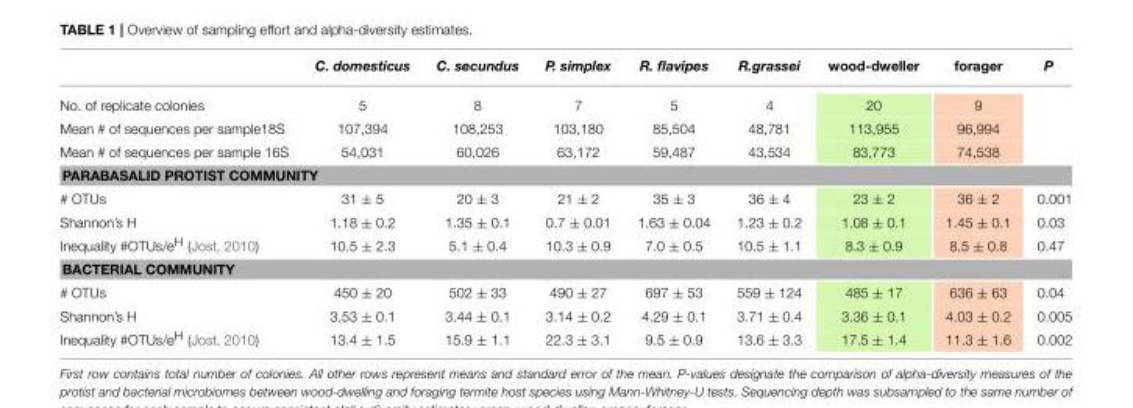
<table><thead><tr><td></td><td>C. domesticus</td><td>C. secundus</td><td>P. simplex</td><td>R. flavipes</td><td>R.grassei</td><td>wood-dweller</td><td>forager</td><td>P</td></tr></thead><tbody><tr><td>No. of replicate colonies</td><td>5</td><td>8</td><td>7</td><td>5</td><td>4</td><td>20</td><td>9</td><td></td></tr><tr><td>Mean # of sequences per sample18S</td><td>107,394</td><td>108,253</td><td>103,180</td><td>85,504</td><td>48,781</td><td>113,955</td><td>96,994</td><td></td></tr><tr><td>Mean # of sequences per sample 16S</td><td>54,031</td><td>60,026</td><td>63,172</td><td>59,487</td><td>43,534</td><td>83,773</td><td>74,538</td><td></td></tr><tr><td colspan="9">PARABASALID PROTIST COMMUNITY</td></tr><tr><td># OTUs</td><td>31 ± 5</td><td>20 ± 3</td><td>21 ± 2</td><td>35 ± 3</td><td>36 ± 4</td><td>23 ± 2</td><td>36 ± 2</td><td>0.001</td></tr><tr><td>Shannon’s H</td><td>1.18 ± 0.2</td><td>1.35 ± 0.1</td><td>0.7 ± 0.01</td><td>1.63 ± 0.04</td><td>1.23 ± 0.2</td><td>1.08 ± 0.1</td><td>1.45 ± 0.1</td><td>0.03</td></tr><tr><td>Inequality #OTUs/e<sup>H</sup> (Jost, 2010)</td><td>10.5 ± 2.3</td><td>5.1 ± 0.4</td><td>10.3 ± 0.9</td><td>7.0 ± 0.5</td><td>10.5 ± 1.1</td><td>8.3 ± 0.9</td><td>8.5 ± 0.8</td><td>0.47</td></tr><tr><td colspan="9">BACTERIAL COMMUNITY</td></tr><tr><td># OTUs</td><td>450 ± 20</td><td>502 ± 33</td><td>490 ± 27</td><td>697 ± 53</td><td>559 ± 124</td><td>485 ± 17</td><td>636 ± 63</td><td>0.04</td></tr><tr><td>Shannon’s H</td><td>3.53 ± 0.1</td><td>3.44 ± 0.1</td><td>3.14 ± 0.2</td><td>4.29 ± 0.1</td><td>3.71 ± 0.4</td><td>3.36 ± 0.1</td><td>4.03 ± 0.2</td><td>0.005</td></tr><tr><td>Inequality #OTUs/e<sup>H</sup> (Jost, 2010)</td><td>13.4 ± 1.5</td><td>15.9 ± 1.1</td><td>22.3 ± 3.1</td><td>9.5 ± 0.9</td><td>13.6 ± 3.3</td><td>17.5 ± 1.4</td><td>11.3 ± 1.6</td><td>0.002</td></tr></tbody></table>